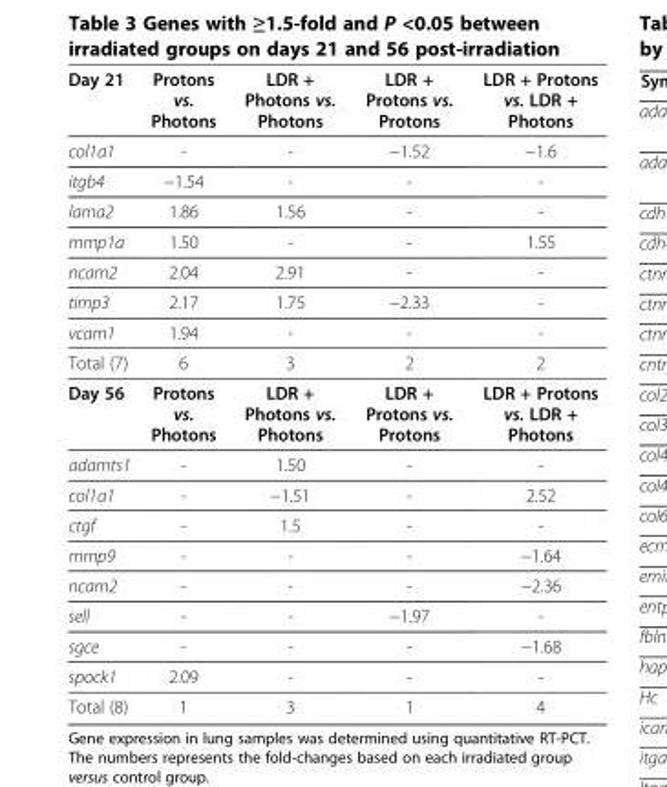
<table><thead><tr><td>Day 21</td><td>Protons vs. Photons</td><td>LDR + Photons vs. Photons</td><td>LDR + Protons vs. Protons</td><td>LDR + Protons vs. LDR + Photons</td></tr></thead><tbody><tr><td>col1a1</td><td>-</td><td>-</td><td>−1.52</td><td>−1.6</td></tr><tr><td>itgb4</td><td>−1.54</td><td>-</td><td>-</td><td>-</td></tr><tr><td>lama2</td><td>1.86</td><td>1.56</td><td>-</td><td>-</td></tr><tr><td>mmp1a</td><td>1.50</td><td>-</td><td>-</td><td>1.55</td></tr><tr><td>ncam2</td><td>2.04</td><td>2.91</td><td>-</td><td>-</td></tr><tr><td>timp3</td><td>2.17</td><td>1.75</td><td>−2.33</td><td>-</td></tr><tr><td>vcam1</td><td>1.94</td><td>-</td><td>-</td><td>-</td></tr><tr><td>Total (7)</td><td>6</td><td>3</td><td>2</td><td>2</td></tr><tr><td>Day 56</td><td>Protons vs. Photons</td><td>LDR + Photons vs. Photons</td><td>LDR + Protons vs. Protons</td><td>LDR + Protons vs. LDR + Photons</td></tr><tr><td>adamts1</td><td>-</td><td>1.50</td><td>-</td><td>-</td></tr><tr><td>col1a1</td><td>-</td><td>−1.51</td><td>-</td><td>2.52</td></tr><tr><td>ctgf</td><td>-</td><td>1.5</td><td>-</td><td>-</td></tr><tr><td>mmp9</td><td>-</td><td>-</td><td>-</td><td>−1.64</td></tr><tr><td>ncam2</td><td>-</td><td>-</td><td>-</td><td>−2.36</td></tr><tr><td>sell</td><td>-</td><td>-</td><td>−1.97</td><td>-</td></tr><tr><td>sgce</td><td>-</td><td>-</td><td>-</td><td>−1.68</td></tr><tr><td>spock1</td><td>2.09</td><td>-</td><td>-</td><td>-</td></tr><tr><td>Total (8)</td><td>1</td><td>3</td><td>1</td><td>4</td></tr></tbody></table>